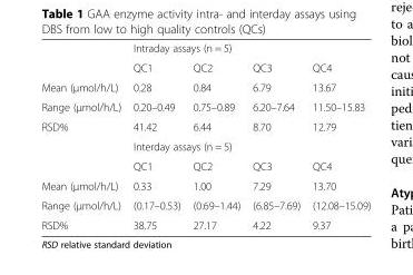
<table><thead><tr><td rowspan="2"></td><td colspan="4">Intraday assays (n = 5)</td></tr><tr><td>QC1</td><td>QC2</td><td>QC3</td><td>QC4</td></tr></thead><tbody><tr><td>Mean (μmol/h/L)</td><td>0.28</td><td>0.84</td><td>6.79</td><td>13.67</td></tr><tr><td>Range (μmol/h/L)</td><td>0.20–0.49</td><td>0.75–0.89</td><td>6.20–7.64</td><td>11.50–15.83</td></tr><tr><td rowspan="3">RSD%</td><td>41.42</td><td>6.44</td><td>8.70</td><td>12.79</td></tr><tr><td colspan="4">Interday assays (n = 5)</td></tr><tr><td>QC1</td><td>QC2</td><td>QC3</td><td>QC4</td></tr><tr><td>Mean (μmol/h/L)</td><td>0.33</td><td>1.00</td><td>7.29</td><td>13.70</td></tr><tr><td>Range (μmol/h/L)</td><td>(0.17–0.53)</td><td>(0.69–1.44)</td><td>(6.85–7.69)</td><td>(12.08–15.09)</td></tr><tr><td>RSD%</td><td>38.75</td><td>27.17</td><td>4.22</td><td>9.37</td></tr></tbody></table>